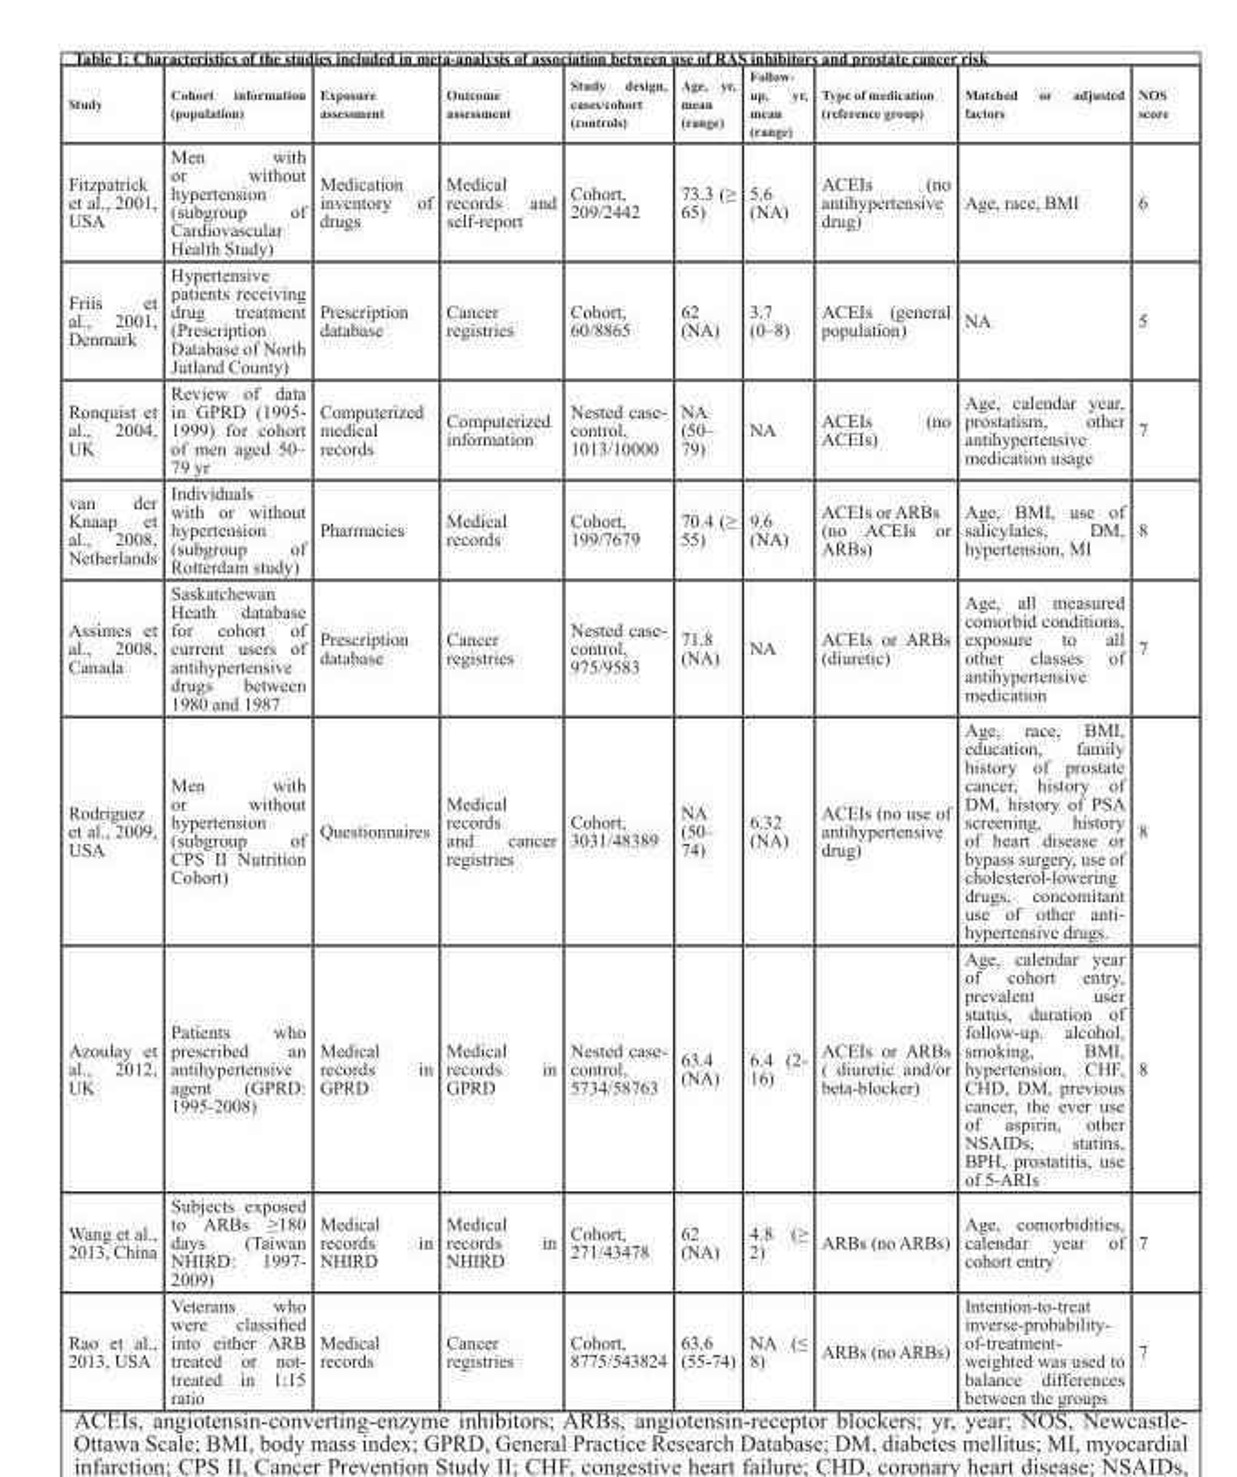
<table><thead><tr><td>Study</td><td>Cohort information (population)</td><td>Exposure assessment</td><td>Outcome assessment</td><td>Study design, cases/cohort (controls)</td><td>Age, yr, mean (range)</td><td>Follow- up, yr, mean (range)</td><td>Type of medication (reference group)</td><td>Matched or adjusted factors</td><td>NOS score</td></tr></thead><tbody><tr><td>Fitzpatrick et al., 2001, USA</td><td>Men with or without hypertension (subgroup of Cardiovascular Health Study)</td><td>Medication inventory of drugs</td><td>Medical records and self-report</td><td>Cohort, 209/2442</td><td>73.3 (≥ 65)</td><td>5.6 (NA)</td><td>ACEIs (no antihypertensive drug)</td><td>Age, race, BMI</td><td>6</td></tr><tr><td>Friis et al., 2001, Denmark</td><td>Hypertensive patients receiving drug treatment (Prescription Database of North Jutland County)</td><td>Prescription database</td><td>Cancer registries</td><td>Cohort, 60/8865</td><td>62 (NA)</td><td>3.7 (0–8)</td><td>ACEIs (general population)</td><td>NA</td><td>5</td></tr><tr><td>Ronquist et al., 2004, UK</td><td>Review of data in GPRD (1995- 1999) for cohort of men aged 50– 79 yr</td><td>Computerized medical records</td><td>Computerized information</td><td>Nested case- control, 1013/10000</td><td>NA (50– 79)</td><td>NA</td><td>ACEIs (no ACEIs)</td><td>Age, calendar year, prostatism, other antihypertensive medication usage</td><td>7</td></tr><tr><td>van der Knaap et al., 2008, Netherlands</td><td>Individuals with or without hypertension (subgroup of Rotterdam study)</td><td>Pharmacies</td><td>Medical records</td><td>Cohort, 199/7679</td><td>70.4 (≥ 55)</td><td>9.6 (NA)</td><td>ACEIs or ARBs (no ACEIs or ARBs)</td><td>Age, BMI, use of salicylates, DM, hypertension, MI</td><td>8</td></tr><tr><td>Assimes et al., 2008, Canada</td><td>Saskatchewan Heath database for cohort of current users of antihypertensive drugs between 1980 and 1987</td><td>Prescription database</td><td>Cancer registries</td><td>Nested case- control, 975/9583</td><td>71.8 (NA)</td><td>NA</td><td>ACEIs or ARBs (diuretic)</td><td>Age, all measured comorbid conditions, exposure to all other classes of antihypertensive medication</td><td>7</td></tr><tr><td>Rodriguez et al., 2009, USA</td><td>Men with or without hypertension (subgroup of CPS II Nutrition Cohort)</td><td>Questionnaires</td><td>Medical records and cancer registries</td><td>Cohort, 3031/48389</td><td>NA (50– 74)</td><td>6.32 (NA)</td><td>ACEIs (no use of antihypertensive drug)</td><td>Age, race, BMI, education, family history of prostate cancer, history of DM, history of PSA screening, history of heart disease or bypass surgery, use of cholesterol-lowering drugs, concomitant use of other anti- hypertensive drugs.</td><td>8</td></tr><tr><td>Azoulay et al., 2012, UK</td><td>Patients who prescribed an antihypertensive agent (GPRD: 1995-2008)</td><td>Medical records in GPRD</td><td>Medical records in GPRD</td><td>Nested case- control, 5734/58763</td><td>63.4 (NA)</td><td>6.4 (2- 16)</td><td>ACEIs or ARBs ( diuretic and/or beta-blocker)</td><td>Age, calendar year of cohort entry, prevalent user status, duration of follow-up. alcohol, smoking, BMI, hypertension, CHF, CHD, DM, previous cancer, the ever use of aspirin, other NSAIDs, statins, BPH, prostatitis, use of 5-ARIs</td><td>8</td></tr><tr><td>Wang et al., 2013, China</td><td>Subjects exposed to ARBs ≥180 days (Taiwan NHIRD: 1997- 2009)</td><td>Medical records in NHIRD</td><td>Medical records in NHIRD</td><td>Cohort, 271/43478</td><td>62 (NA)</td><td>4.8 (≥ 2)</td><td>ARBs (no ARBs)</td><td>Age, comorbidities, calendar year of cohort entry</td><td>7</td></tr><tr><td>Rao et al., 2013, USA</td><td>Veterans who were classified into either ARB treated or not- treated in 1:15 ratio</td><td>Medical records</td><td>Cancer registries</td><td>Cohort, 8775/543824</td><td>63.6 (55-74)</td><td>NA (≤ 8)</td><td>ARBs (no ARBs)</td><td>Intention-to-treat inverse-probability- of-treatment- weighted was used to balance differences between the groups</td><td>7</td></tr></tbody></table>